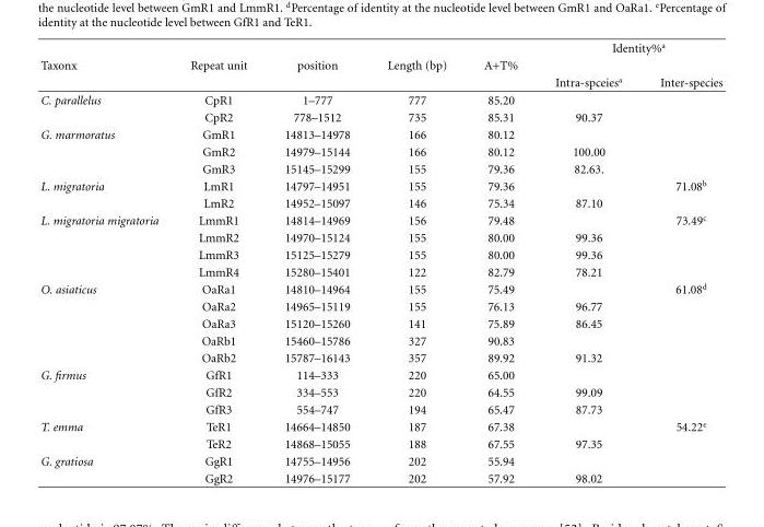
<table><thead><tr><td rowspan="3">Taxonx</td><td rowspan="3">Repeat unit</td><td rowspan="3">position</td><td rowspan="3">Length (bp)</td><td rowspan="3">A+T%</td><td colspan="2">Identity%<sup>a</sup></td></tr><tr><td rowspan="2">Intra-spceies<sup>a</sup></td><td rowspan="2">Inter-species</td></tr><tr></tr></thead><tbody><tr><td rowspan="2">C. parallelus</td><td>CpR1</td><td>1–777</td><td>777</td><td>85.20</td><td></td><td></td></tr><tr><td>CpR2</td><td>778–1512</td><td>735</td><td>85.31</td><td>90.37</td><td></td></tr><tr><td rowspan="3">G. marmoratus</td><td>GmR1</td><td>14813–14978</td><td>166</td><td>80.12</td><td></td><td></td></tr><tr><td>GmR2</td><td>14979–15144</td><td>166</td><td>80.12</td><td>100.00</td><td></td></tr><tr><td>GmR3</td><td>15145–15299</td><td>155</td><td>79.36</td><td>82.63.</td><td></td></tr><tr><td rowspan="2">L. migratoria</td><td>LmR1</td><td>14797–14951</td><td>155</td><td>79.36</td><td></td><td>71.08<sup>b</sup></td></tr><tr><td>LmR2</td><td>14952–15097</td><td>146</td><td>75.34</td><td>87.10</td><td></td></tr><tr><td rowspan="4">L. migratoria migratoria</td><td>LmmR1</td><td>14814–14969</td><td>156</td><td>79.48</td><td></td><td>73.49<sup>c</sup></td></tr><tr><td>LmmR2</td><td>14970–15124</td><td>155</td><td>80.00</td><td>99.36</td><td></td></tr><tr><td>LmmR3</td><td>15125–15279</td><td>155</td><td>80.00</td><td>99.36</td><td></td></tr><tr><td>LmmR4</td><td>15280–15401</td><td>122</td><td>82.79</td><td>78.21</td><td></td></tr><tr><td rowspan="5">O. asiaticus</td><td>OaRa1</td><td>14810–14964</td><td>155</td><td>75.49</td><td></td><td>61.08<sup>d</sup></td></tr><tr><td>OaRa2</td><td>14965–15119</td><td>155</td><td>76.13</td><td>96.77</td><td></td></tr><tr><td>OaRa3</td><td>15120–15260</td><td>141</td><td>75.89</td><td>86.45</td><td></td></tr><tr><td>OaRb1</td><td>15460–15786</td><td>327</td><td>90.83</td><td></td><td></td></tr><tr><td>OaRb2</td><td>15787–16143</td><td>357</td><td>89.92</td><td>91.32</td><td></td></tr><tr><td rowspan="3">G. firmus</td><td>GfR1</td><td>114–333</td><td>220</td><td>65.00</td><td></td><td></td></tr><tr><td>GfR2</td><td>334–553</td><td>220</td><td>64.55</td><td>99.09</td><td></td></tr><tr><td>GfR3</td><td>554–747</td><td>194</td><td>65.47</td><td>87.73</td><td></td></tr><tr><td rowspan="2">T. emma</td><td>TeR1</td><td>14664–14850</td><td>187</td><td>67.38</td><td></td><td>54.22<sup>e</sup></td></tr><tr><td>TeR2</td><td>14868–15055</td><td>188</td><td>67.55</td><td>97.35</td><td></td></tr><tr><td rowspan="2">G. gratiosa</td><td>GgR1</td><td>14755–14956</td><td>202</td><td>55.94</td><td></td><td></td></tr><tr><td>GgR2</td><td>14976–15177</td><td>202</td><td>57.92</td><td>98.02</td><td></td></tr></tbody></table>